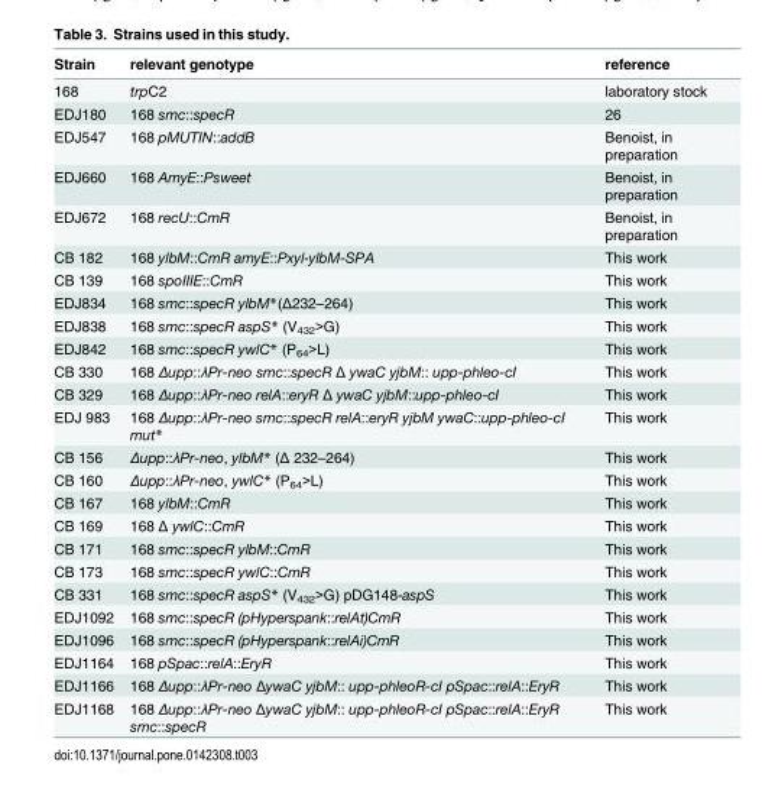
<table><thead><tr><td>Strain</td><td>relevant genotype</td><td>reference</td></tr></thead><tbody><tr><td>168</td><td>trpC2</td><td>laboratory stock</td></tr><tr><td>EDJ180</td><td>168 smc::specR</td><td>26</td></tr><tr><td>EDJ547</td><td>168 pMUTIN::addB</td><td>Benoist, in preparation</td></tr><tr><td>EDJ660</td><td>168 AmyE::Psweet</td><td>Benoist, in preparation</td></tr><tr><td>EDJ672</td><td>168 recU::CmR</td><td>Benoist, in preparation</td></tr><tr><td>CB 182</td><td>168 ylbM::CmR amyE::Pxyl-ylbM-SPA</td><td>This work</td></tr><tr><td>CB 139</td><td>168 spoIIIE::CmR</td><td>This work</td></tr><tr><td>EDJ834</td><td>168 smc::specR ylbM*(Δ232–264)</td><td>This work</td></tr><tr><td>EDJ838</td><td>168 smc::specR aspS* (V<sub>432</sub>&gt;G)</td><td>This work</td></tr><tr><td>EDJ842</td><td>168 smc::specR ywlC* (P<sub>64</sub>&gt;L)</td><td>This work</td></tr><tr><td>CB 330</td><td>168 Δupp::λPr-neo smc::specR Δ ywaC yjbM:: upp-phleo-cI</td><td>This work</td></tr><tr><td>CB 329</td><td>168 Δupp::λPr-neo relA::eryR Δ ywaC yjbM::upp-phleo-cI</td><td>This work</td></tr><tr><td>EDJ 983</td><td>168 Δupp::λPr-neo smc::specR relA::eryR yjbM ywaC::upp-phleo-cI mut*</td><td>This work</td></tr><tr><td>CB 156</td><td>Δupp::λPr-neo, ylbM* (Δ 232–264)</td><td>This work</td></tr><tr><td>CB 160</td><td>Δupp::λPr-neo, ywlC* (P<sub>64</sub>&gt;L)</td><td>This work</td></tr><tr><td>CB 167</td><td>168 ylbM::CmR</td><td>This work</td></tr><tr><td>CB 169</td><td>168 Δ ywlC::CmR</td><td>This work</td></tr><tr><td>CB 171</td><td>168 smc::specR ylbM::CmR</td><td>This work</td></tr><tr><td>CB 173</td><td>168 smc::specR ywlC::CmR</td><td>This work</td></tr><tr><td>CB 331</td><td>168 smc::specR aspS* (V<sub>432</sub>&gt;G) pDG148-aspS</td><td>This work</td></tr><tr><td>EDJ1092</td><td>168 smc::specR (pHyperspank::relAt)CmR</td><td>This work</td></tr><tr><td>EDJ1096</td><td>168 smc::specR (pHyperspank::relAi)CmR</td><td>This work</td></tr><tr><td>EDJ1164</td><td>168 pSpac::relA::EryR</td><td>This work</td></tr><tr><td>EDJ1166</td><td>168 Δupp::λPr-neo ΔywaC yjbM:: upp-phleoR-cI pSpac::relA::EryR</td><td>This work</td></tr><tr><td>EDJ1168</td><td>168 Δupp::λPr-neo ΔywaC yjbM:: upp-phleoR-cI pSpac::relA::EryR smc::specR</td><td>This work</td></tr></tbody></table>